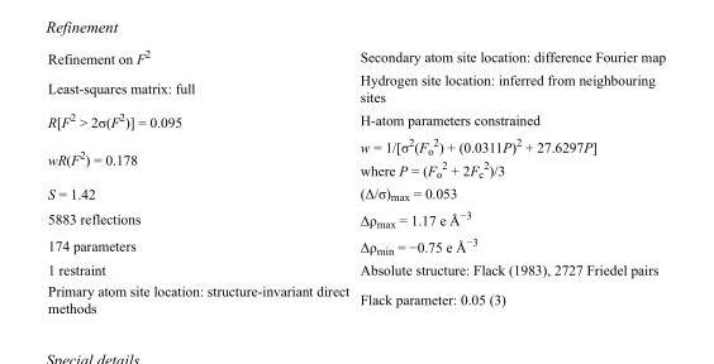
<table><tbody><tr><td>Refinement on F<sup>2</sup></td><td>Secondary atom site location: difference Fourier map</td></tr><tr><td>Least-squares matrix: full</td><td>Hydrogen site location: inferred from neighbouring sites</td></tr><tr><td>R[F<sup>2</sup> &gt; 2σ(F<sup>2</sup>)] = 0.095</td><td>H-atom parameters constrained</td></tr><tr><td>wR(F<sup>2</sup>) = 0.178</td><td>w = 1/[σ<sup>2</sup>(F<sub>o</sub> <sup>2</sup>) + (0.0311P)<sup>2</sup> + 27.6297P] where P = (F<sub>o</sub> <sup>2</sup> + 2F<sub>c</sub> <sup>2</sup>)/3</td></tr><tr><td>S = 1.42</td><td>(Δ/σ)<sub>max</sub> = 0.053</td></tr><tr><td>5883 reflections</td><td>Δρ<sub>max</sub> = 1.17 e Å<sup>−3</sup></td></tr><tr><td>174 parameters</td><td>Δρmin = −0.75 e Å−3</td></tr><tr><td>1 restraint</td><td>Absolute structure: Flack (1983), 2727 Friedel pairs</td></tr><tr><td>Primary atom site location: structure-invariant direct methods</td><td>Flack parameter: 0.05 (3)</td></tr></tbody></table>